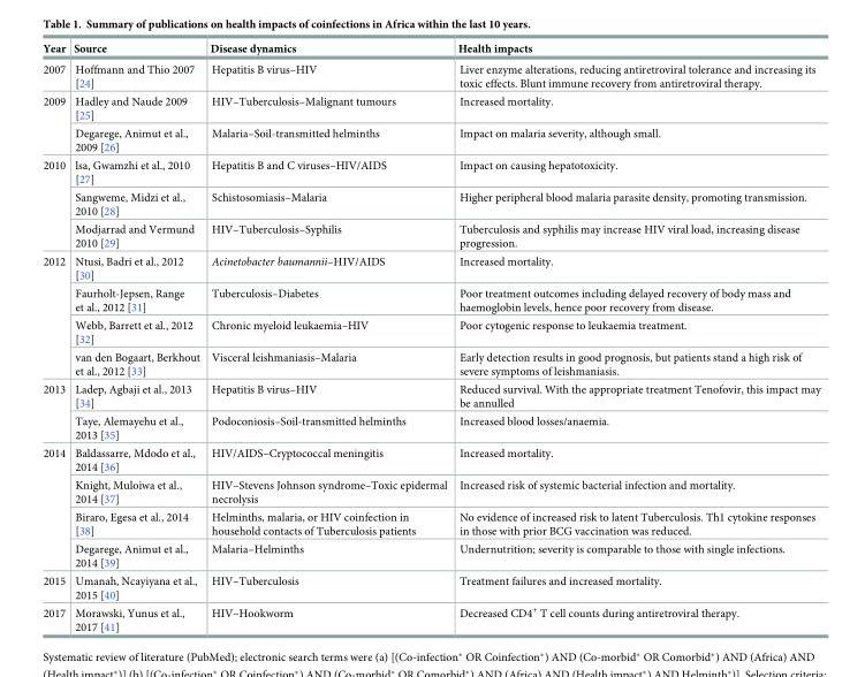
<table><thead><tr><td>Year</td><td>Source</td><td>Disease dynamics</td><td>Health impacts</td></tr></thead><tbody><tr><td>2007</td><td>Hoffmann and Thio 2007 [24]</td><td>Hepatitis B virus–HIV</td><td>Liver enzyme alterations, reducing antiretroviral tolerance and increasing its toxic effects. Blunt immune recovery from antiretroviral therapy.</td></tr><tr><td rowspan="2">2009</td><td>Hadley and Naude 2009 [25]</td><td>HIV–Tuberculosis–Malignant tumours</td><td>Increased mortality.</td></tr><tr><td>Degarege, Animut et al., 2009 [26]</td><td>Malaria–Soil-transmitted helminths</td><td>Impact on malaria severity, although small.</td></tr><tr><td rowspan="3">2010</td><td>lsa, Gwamzhi et al., 2010 [27]</td><td>Hepatitis B and C viruses–HIV/AIDS</td><td>Impact on causing hepatotoxicity.</td></tr><tr><td>Sangweme, Midzi et al., 2010 [28]</td><td>Schistosomiasis–Malaria</td><td>Higher peripheral blood malaria parasite density, promoting transmission.</td></tr><tr><td>Modjarrad and Vermund 2010 [29]</td><td>HIV–Tuberculosis–Syphilis</td><td>Tuberculosis and syphilis may increase HIV viral load, increasing disease progression.</td></tr><tr><td rowspan="4">2012</td><td>Ntusi, Badri et al., 2012 [30]</td><td>Acinetobacter baumannii–HIV/AIDS</td><td>Increased mortality.</td></tr><tr><td>Faurholt-Jepsen, Range et al., 2012 [31]</td><td>Tuberculosis–Diabetes</td><td>Poor treatment outcomes including delayed recovery of body mass and haemoglobin levels, hence poor recovery from disease.</td></tr><tr><td>Webb, Barrett et al., 2012 [32]</td><td>Chronic myeloid leukaemia–HIV</td><td>Poor cytogenic response to leukaemia treatment.</td></tr><tr><td>van den Bogaart, Berkhout et al., 2012 [33]</td><td>Visceral leishmaniasis–Malaria</td><td>Early detection results in good prognosis, but patients stand a high risk of severe symptoms of leishmaniasis.</td></tr><tr><td rowspan="2">2013</td><td>Ladep, Agbaji et al., 2013 [34]</td><td>Hepatitis B virus–HIV</td><td>Reduced survival. With the appropriate treatment Tenofovir, this impact may be annulled</td></tr><tr><td>Taye, Alemayehu et al., 2013 [35]</td><td>Podoconiosis–Soil-transmitted helminths</td><td>Increased blood losses/anaemia.</td></tr><tr><td rowspan="4">2014</td><td>Baldassarre, Mdodo et al., 2014 [36]</td><td>HIV/AIDS–Cryptococcal meningitis</td><td>Increased mortality.</td></tr><tr><td>Knight, Muloiwa et al., 2014 [37]</td><td>HIV–Stevens Johnson syndrome–Toxic epidermal necrolysis</td><td>Increased risk of systemic bacterial infection and mortality.</td></tr><tr><td>Biraro, Egesa et al., 2014 [38]</td><td>Helminths, malaria, or HIV coinfection in household contacts of Tuberculosis patients</td><td>No evidence of increased risk to latent Tuberculosis. Th1 cytokine responses in those with prior BCG vaccination was reduced.</td></tr><tr><td>Degarege, Animut et al., 2014 [39]</td><td>Malaria–Helminths</td><td>Undernutrition; severity is comparable to those with single infections.</td></tr><tr><td>2015</td><td>Umanah, Ncayiyana et al., 2015 [40]</td><td>HIV–Tuberculosis</td><td>Treatment failures and increased mortality.</td></tr><tr><td>2017</td><td>Morawski, Yunus et al., 2017 [41]</td><td>HIV–Hookworm</td><td>Decreased CD4<sup>+</sup> T cell counts during antiretroviral therapy.</td></tr></tbody></table>